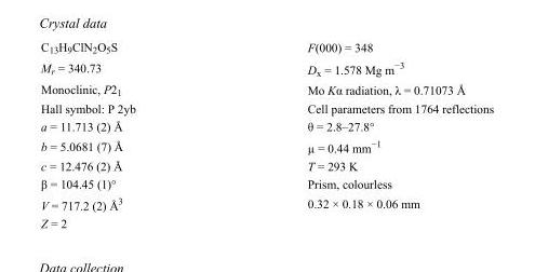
<table><tbody><tr><td>C<sub>13</sub>H<sub>9</sub>ClN<sub>2</sub>O<sub>5</sub>S</td><td>F(000) = 348</td></tr><tr><td>M<sub>r</sub> = 340.73</td><td>D<sub>x</sub> = 1.578 Mg m<sup>−3</sup></td></tr><tr><td>Monoclinic, P2<sub>1</sub></td><td>Mo Kα radiation, λ = 0.71073 Å</td></tr><tr><td>Hall symbol: P 2yb</td><td>Cell parameters from 1764 reflections</td></tr><tr><td>a = 11.713 (2) Å</td><td>θ = 2.8–27.8°</td></tr><tr><td>b = 5.0681 (7) Å</td><td>µ = 0.44 mm<sup>−1</sup></td></tr><tr><td>c = 12.476 (2) Å</td><td>T = 293 K</td></tr><tr><td>β = 104.45 (1)°</td><td>Prism, colourless</td></tr><tr><td>V = 717.2 (2) Å<sup>3</sup></td><td>0.32 × 0.18 × 0.06 mm</td></tr><tr><td>Z = 2</td><td></td></tr></tbody></table>